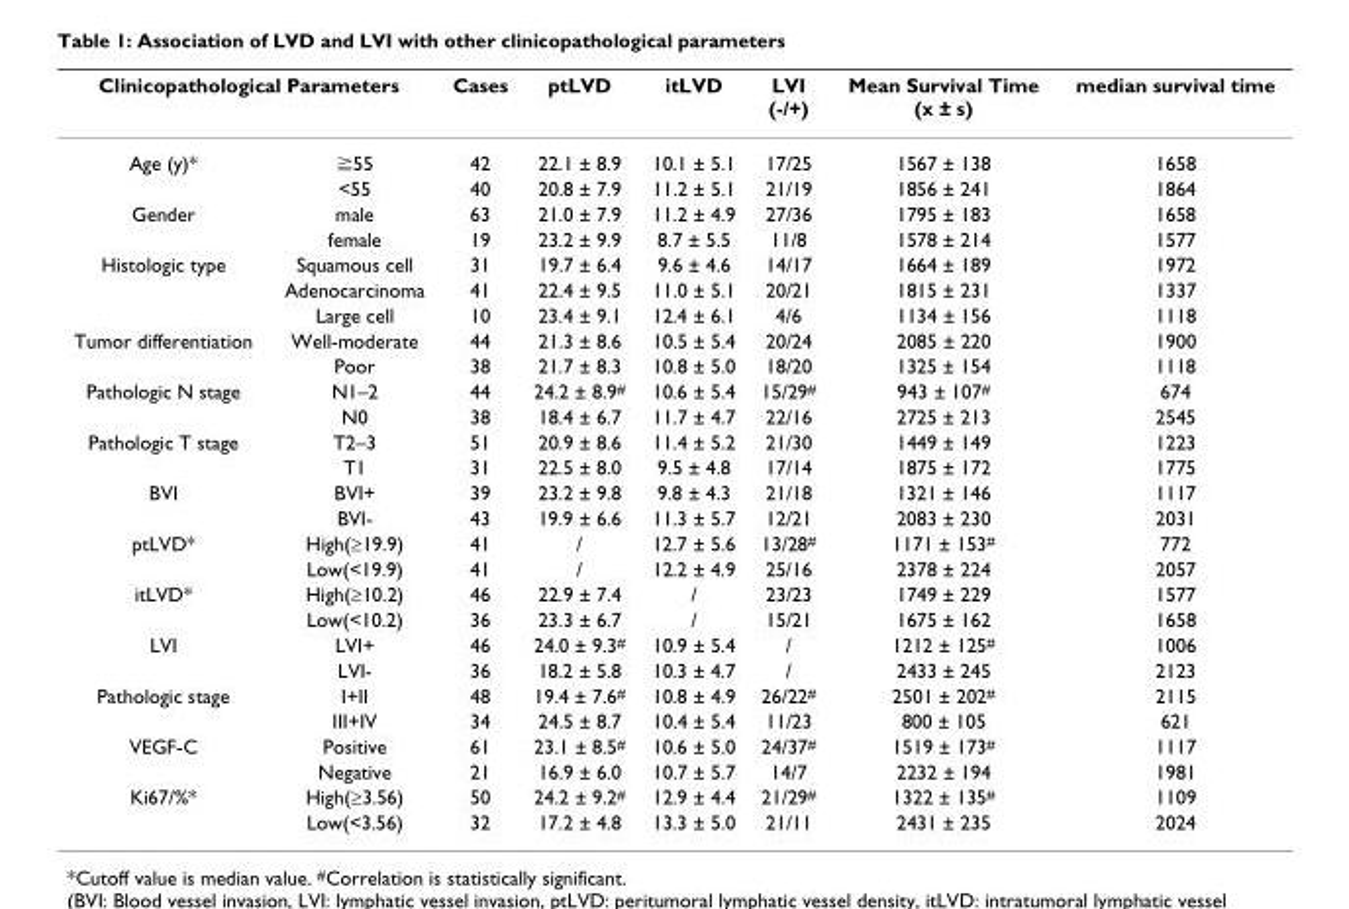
<table><thead><tr><td colspan="2">Clinicopathological Parameters</td><td rowspan="2">Cases 42</td><td rowspan="2">ptLVD 22.1 ± 8.9</td><td rowspan="2">itLVD 10.1 ± 5.1</td><td rowspan="2">LVI (-/+) 17/25</td><td rowspan="2">Mean Survival Time (x ± s) 1567 ± 138</td><td rowspan="2">median survival time 1658</td></tr><tr><td>Age (y)*</td><td>≧55</td></tr></thead><tbody><tr><td></td><td>&lt;55</td><td>40</td><td>20.8 ± 7.9</td><td>11.2 ± 5.1</td><td>21/19</td><td>1856 ± 241</td><td>1864</td></tr><tr><td rowspan="2">Gender</td><td>male</td><td>63</td><td>21.0 ± 7.9</td><td>11.2 ± 4.9</td><td>27/36</td><td>1795 ± 183</td><td>1658</td></tr><tr><td>female</td><td>19</td><td>23.2 ± 9.9</td><td>8.7 ± 5.5</td><td>11/8</td><td>1578 ± 214</td><td>1577</td></tr><tr><td rowspan="3">Histologic type</td><td>Squamous cell</td><td>31</td><td>19.7 ± 6.4</td><td>9.6 ± 4.6</td><td>14/17</td><td>1664 ± 189</td><td>1972</td></tr><tr><td>Adenocarcinoma</td><td>41</td><td>22.4 ± 9.5</td><td>11.0 ± 5.1</td><td>20/21</td><td>1815 ± 231</td><td>1337</td></tr><tr><td>Large cell</td><td>10</td><td>23.4 ± 9.1</td><td>12.4 ± 6.1</td><td>4/6</td><td>1134 ± 156</td><td>1118</td></tr><tr><td rowspan="2">Tumor differentiation</td><td>Well-moderate</td><td>44</td><td>21.3 ± 8.6</td><td>10.5 ± 5.4</td><td>20/24</td><td>2085 ± 220</td><td>1900</td></tr><tr><td>Poor</td><td>38</td><td>21.7 ± 8.3</td><td>10.8 ± 5.0</td><td>18/20</td><td>1325 ± 154</td><td>1118</td></tr><tr><td rowspan="2">Pathologic N stage</td><td>N1–2</td><td>44</td><td>24.2 ± 8.9<sup>#</sup></td><td>10.6 ± 5.4</td><td>15/29<sup>#</sup></td><td>943 ± 107<sup>#</sup></td><td>674</td></tr><tr><td>N0</td><td>38</td><td>18.4 ± 6.7</td><td>11.7 ± 4.7</td><td>22/16</td><td>2725 ± 213</td><td>2545</td></tr><tr><td rowspan="2">Pathologic T stage</td><td>T2–3</td><td>51</td><td>20.9 ± 8.6</td><td>11.4 ± 5.2</td><td>21/30</td><td>1449 ± 149</td><td>1223</td></tr><tr><td>T1</td><td>31</td><td>22.5 ± 8.0</td><td>9.5 ± 4.8</td><td>17/14</td><td>1875 ± 172</td><td>1775</td></tr><tr><td rowspan="2">BVI</td><td>BVI+</td><td>39</td><td>23.2 ± 9.8</td><td>9.8 ± 4.3</td><td>21/18</td><td>1321 ± 146</td><td>1117</td></tr><tr><td>BVI-</td><td>43</td><td>19.9 ± 6.6</td><td>11.3 ± 5.7</td><td>12/21</td><td>2083 ± 230</td><td>2031</td></tr><tr><td rowspan="2">ptLVD*</td><td>High(≥19.9)</td><td>41</td><td>/</td><td>12.7 ± 5.6</td><td>13/28<sup>#</sup></td><td>1171 ± 153<sup>#</sup></td><td>772</td></tr><tr><td>Low(&lt;19.9)</td><td>41</td><td>/</td><td>12.2 ± 4.9</td><td>25/16</td><td>2378 ± 224</td><td>2057</td></tr><tr><td rowspan="2">itLVD*</td><td>High(≥10.2)</td><td>46</td><td>22.9 ± 7.4</td><td>/</td><td>23/23</td><td>1749 ± 229</td><td>1577</td></tr><tr><td>Low(&lt;10.2)</td><td>36</td><td>23.3 ± 6.7</td><td>/</td><td>15/21</td><td>1675 ± 162</td><td>1658</td></tr><tr><td rowspan="2">LVI</td><td>LVI+</td><td>46</td><td>24.0 ± 9.3<sup>#</sup></td><td>10.9 ± 5.4</td><td>/</td><td>1212 ± 125<sup>#</sup></td><td>1006</td></tr><tr><td>LVI-</td><td>36</td><td>18.2 ± 5.8</td><td>10.3 ± 4.7</td><td>/</td><td>2433 ± 245</td><td>2123</td></tr><tr><td rowspan="2">Pathologic stage</td><td>I+II</td><td>48</td><td>19.4 ± 7.6<sup>#</sup></td><td>10.8 ± 4.9</td><td>26/22<sup>#</sup></td><td>2501 ± 202<sup>#</sup></td><td>2115</td></tr><tr><td>III+IV</td><td>34</td><td>24.5 ± 8.7</td><td>10.4 ± 5.4</td><td>11/23</td><td>800 ± 105</td><td>621</td></tr><tr><td rowspan="2">VEGF-C</td><td>Positive</td><td>61</td><td>23.1 ± 8.5<sup>#</sup></td><td>10.6 ± 5.0</td><td>24/37<sup>#</sup></td><td>1519 ± 173<sup>#</sup></td><td>1117</td></tr><tr><td>Negative</td><td>21</td><td>16.9 ± 6.0</td><td>10.7 ± 5.7</td><td>14/7</td><td>2232 ± 194</td><td>1981</td></tr><tr><td rowspan="2">Ki67/%*</td><td>High(≥3.56)</td><td>50</td><td>24.2 ± 9.2<sup>#</sup></td><td>12.9 ± 4.4</td><td>21/29<sup>#</sup></td><td>1322 ± 135<sup>#</sup></td><td>1109</td></tr><tr><td>Low(&lt;3.56)</td><td>32</td><td>17.2 ± 4.8</td><td>13.3 ± 5.0</td><td>21/11</td><td>2431 ± 235</td><td>2024</td></tr></tbody></table>